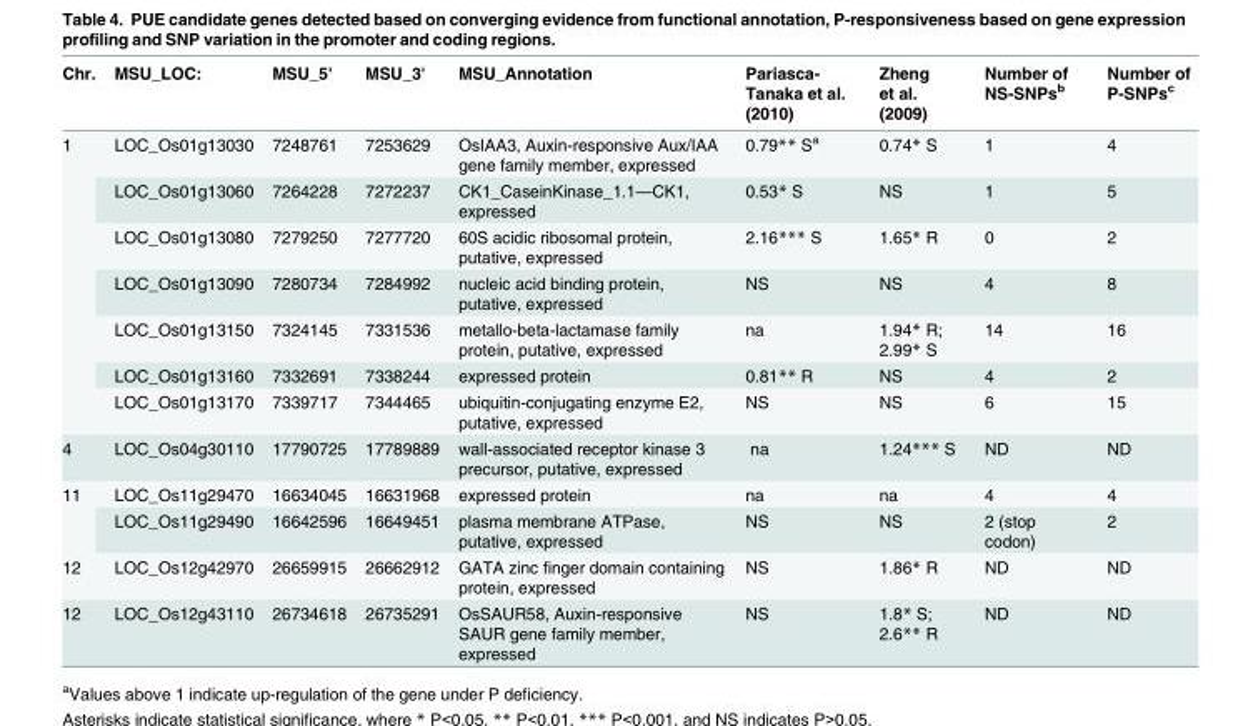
<table><thead><tr><td>Chr.</td><td>MSU_LOC:</td><td>MSU_5&#x27;</td><td>MSU_3&#x27;</td><td>MSU_Annotation</td><td>Pariasca- Tanaka et al. (2010)</td><td>Zheng et al. (2009)</td><td>Number of NS-SNPs<sup>b</sup></td><td>Number of P-SNPs<sup>c</sup></td></tr></thead><tbody><tr><td rowspan="7">1</td><td>LOC_Os01g13030</td><td>7248761</td><td>7253629</td><td>OsIAA3, Auxin-responsive Aux/IAA gene family member, expressed</td><td>0.79** S<sup>a</sup></td><td>0.74* S</td><td>1</td><td>4</td></tr><tr><td>LOC_Os01g13060</td><td>7264228</td><td>7272237</td><td>CK1_CaseinKinase_1.1—CK1, expressed</td><td>0.53* S</td><td>NS</td><td>1</td><td>5</td></tr><tr><td>LOC_Os01g13080</td><td>7279250</td><td>7277720</td><td>60S acidic ribosomal protein, putative, expressed</td><td>2.16*** S</td><td>1.65* R</td><td>0</td><td>2</td></tr><tr><td>LOC_Os01g13090</td><td>7280734</td><td>7284992</td><td>nucleic acid binding protein, putative, expressed</td><td>NS</td><td>NS</td><td>4</td><td>8</td></tr><tr><td>LOC_Os01g13150</td><td>7324145</td><td>7331536</td><td>metallo-beta-lactamase family protein, putative, expressed</td><td>na</td><td>1.94* R; 2.99* S</td><td>14</td><td>16</td></tr><tr><td>LOC_Os01g13160</td><td>7332691</td><td>7338244</td><td>expressed protein</td><td>0.81** R</td><td>NS</td><td>4</td><td>2</td></tr><tr><td>LOC_Os01g13170</td><td>7339717</td><td>7344465</td><td>ubiquitin-conjugating enzyme E2, putative, expressed</td><td>NS</td><td>NS</td><td>6</td><td>15</td></tr><tr><td>4</td><td>LOC_Os04g30110</td><td>17790725</td><td>17789889</td><td>wall-associated receptor kinase 3 precursor, putative, expressed</td><td>na</td><td>1.24*** S</td><td>ND</td><td>ND</td></tr><tr><td rowspan="2">11</td><td>LOC_Os11g29470</td><td>16634045</td><td>16631968</td><td>expressed protein</td><td>na</td><td>na</td><td>4</td><td>4</td></tr><tr><td>LOC_Os11g29490</td><td>16642596</td><td>16649451</td><td>plasma membrane ATPase, putative, expressed</td><td>NS</td><td>NS</td><td>2 (stop codon)</td><td>2</td></tr><tr><td>12</td><td>LOC_Os12g42970</td><td>26659915</td><td>26662912</td><td>GATA zinc finger domain containing protein, expressed</td><td>NS</td><td>1.86* R</td><td>ND</td><td>ND</td></tr><tr><td>12</td><td>LOC_Os12g43110</td><td>26734618</td><td>26735291</td><td>OsSAUR58, Auxin-responsive SAUR gene family member, expressed</td><td>NS</td><td>1.8* S; 2.6** R</td><td>ND</td><td>ND</td></tr></tbody></table>